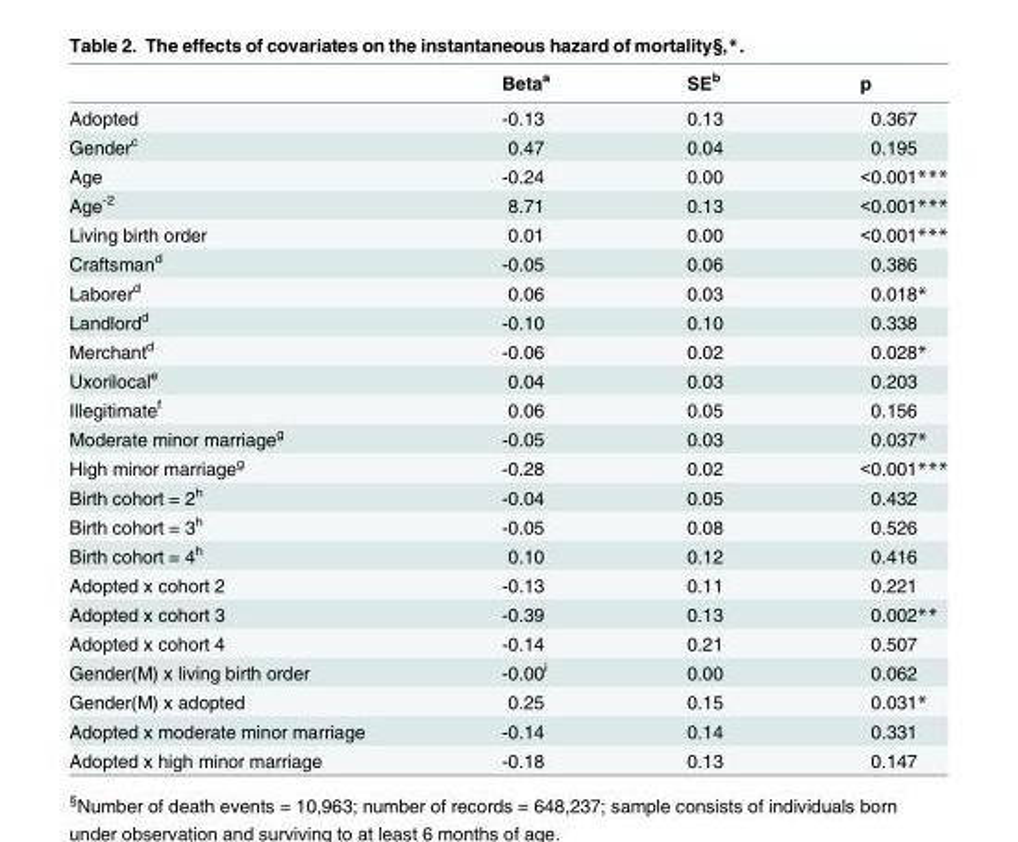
<table><thead><tr><td></td><td>Beta<sup>a</sup></td><td>SE<sup>b</sup></td><td>p</td></tr></thead><tbody><tr><td>Adopted</td><td>-0.13</td><td>0.13</td><td>0.367</td></tr><tr><td>Gender<sup>c</sup></td><td>0.47</td><td>0.04</td><td>0.195</td></tr><tr><td>Age</td><td>-0.24</td><td>0.00</td><td>&lt;0.001***</td></tr><tr><td>Age<sup>-2</sup></td><td>8.71</td><td>0.13</td><td>&lt;0.001***</td></tr><tr><td>Living birth order</td><td>0.01</td><td>0.00</td><td>&lt;0.001***</td></tr><tr><td>Craftsman<sup>d</sup></td><td>-0.05</td><td>0.06</td><td>0.386</td></tr><tr><td>Laborer<sup>d</sup></td><td>0.06</td><td>0.03</td><td>0.018*</td></tr><tr><td>Landlord<sup>d</sup></td><td>-0.10</td><td>0.10</td><td>0.338</td></tr><tr><td>Merchant<sup>d</sup></td><td>-0.06</td><td>0.02</td><td>0.028*</td></tr><tr><td>Uxorilocal<sup>e</sup></td><td>0.04</td><td>0.03</td><td>0.203</td></tr><tr><td>Illegitimate<sup>f</sup></td><td>0.06</td><td>0.05</td><td>0.156</td></tr><tr><td>Moderate minor marriage<sup>g</sup></td><td>-0.05</td><td>0.03</td><td>0.037*</td></tr><tr><td>High minor marriage<sup>g</sup></td><td>-0.28</td><td>0.02</td><td>&lt;0.001***</td></tr><tr><td>Birth cohort = 2<sup>h</sup></td><td>-0.04</td><td>0.05</td><td>0.432</td></tr><tr><td>Birth cohort = 3<sup>h</sup></td><td>-0.05</td><td>0.08</td><td>0.526</td></tr><tr><td>Birth cohort = 4<sup>h</sup></td><td>0.10</td><td>0.12</td><td>0.416</td></tr><tr><td>Adopted x cohort 2</td><td>-0.13</td><td>0.11</td><td>0.221</td></tr><tr><td>Adopted x cohort 3</td><td>-0.39</td><td>0.13</td><td>0.002**</td></tr><tr><td>Adopted x cohort 4</td><td>-0.14</td><td>0.21</td><td>0.507</td></tr><tr><td>Gender(M) x living birth order</td><td>-0.00<sup>i</sup></td><td>0.00</td><td>0.062</td></tr><tr><td>Gender(M) x adopted</td><td>0.25</td><td>0.15</td><td>0.031*</td></tr><tr><td>Adopted x moderate minor marriage</td><td>-0.14</td><td>0.14</td><td>0.331</td></tr><tr><td>Adopted x high minor marriage</td><td>-0.18</td><td>0.13</td><td>0.147</td></tr></tbody></table>